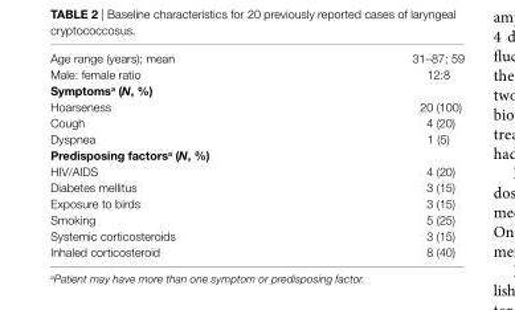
<table><tbody><tr><td>Age range (years); mean</td><td>31–87; 59</td></tr><tr><td>Male: female ratio</td><td>12:8</td></tr><tr><td colspan="2">symptoms<sup>a</sup> (N, %)</td></tr><tr><td>Hoarseness</td><td>20 (100)</td></tr><tr><td>Cough</td><td>4 (20)</td></tr><tr><td>Dyspnea</td><td>1 (5)</td></tr><tr><td colspan="2">predisposing factors<sup>a</sup> (N, %)</td></tr><tr><td>HIV/AIDS</td><td>4 (20)</td></tr><tr><td>Diabetes mellitus</td><td>3 (15)</td></tr><tr><td>Exposure to birds</td><td>3 (15)</td></tr><tr><td>Smoking</td><td>5 (25)</td></tr><tr><td>Systemic corticosteroids</td><td>3 (15)</td></tr><tr><td>Inhaled corticosteroid</td><td>8 (40)</td></tr></tbody></table>